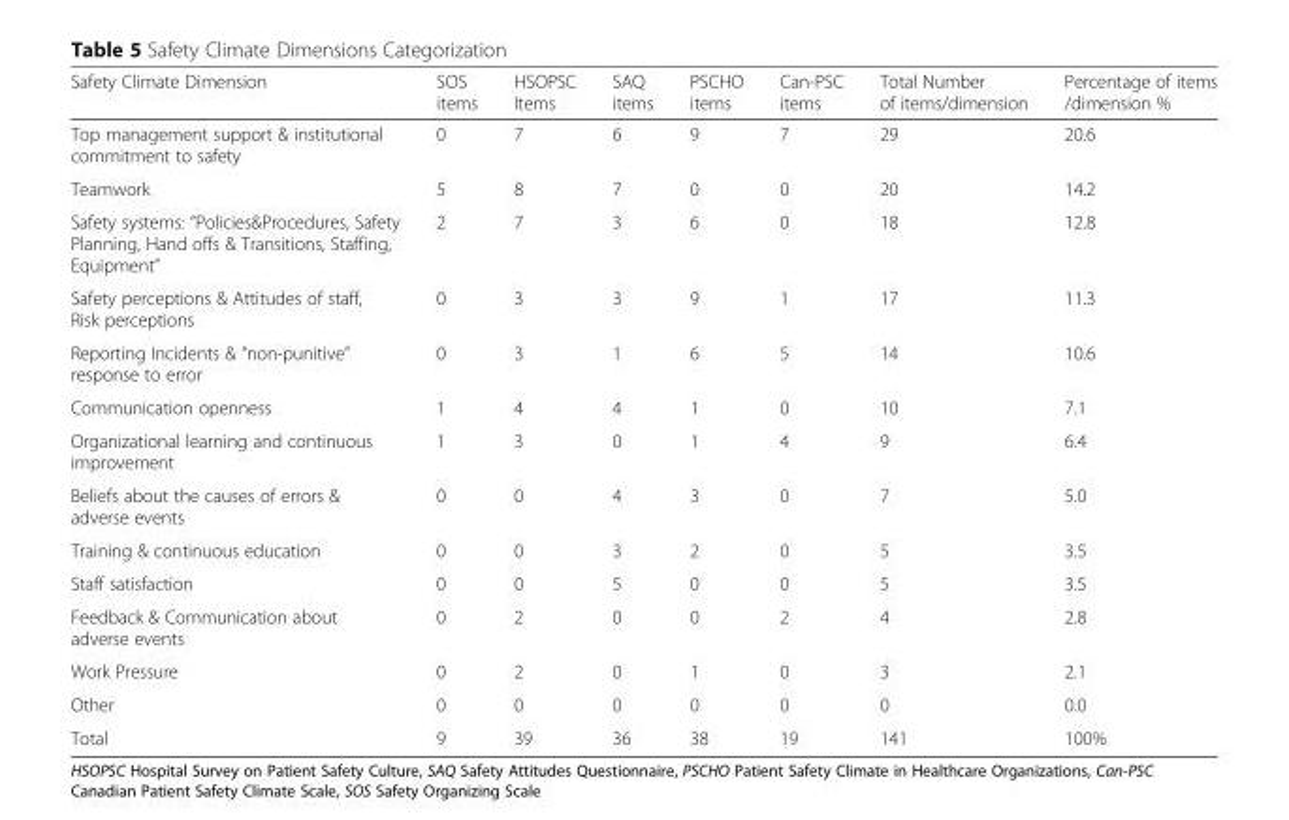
<table><thead><tr><td>Safety Climate Dimension</td><td>SOS items</td><td>HSOPSC Items</td><td>SAQ items</td><td>PSCHO items</td><td>Can-PSC items</td><td>Total Number of items/dimension</td><td>Percentage of items /dimension %</td></tr></thead><tbody><tr><td>Top management support &amp; institutional commitment to safety</td><td>0</td><td>7</td><td>6</td><td>9</td><td>7</td><td>29</td><td>20.6</td></tr><tr><td>Teamwork</td><td>5</td><td>8</td><td>7</td><td>0</td><td>0</td><td>20</td><td>14.2</td></tr><tr><td>Safety systems: “Policies&amp;Procedures, Safety Planning, Hand offs &amp; Transitions, Staffing, Equipment”</td><td>2</td><td>7</td><td>3</td><td>6</td><td>0</td><td>18</td><td>12.8</td></tr><tr><td>Safety perceptions &amp; Attitudes of staff, Risk perceptions</td><td>0</td><td>3</td><td>3</td><td>9</td><td>1</td><td>17</td><td>11.3</td></tr><tr><td>Reporting Incidents &amp; “non-punitive” response to error</td><td>0</td><td>3</td><td>1</td><td>6</td><td>5</td><td>14</td><td>10.6</td></tr><tr><td>Communication openness</td><td>1</td><td>4</td><td>4</td><td>1</td><td>0</td><td>10</td><td>7.1</td></tr><tr><td>Organizational learning and continuous improvement</td><td>1</td><td>3</td><td>0</td><td>1</td><td>4</td><td>9</td><td>6.4</td></tr><tr><td>Beliefs about the causes of errors &amp; adverse events</td><td>0</td><td>0</td><td>4</td><td>3</td><td>0</td><td>7</td><td>5.0</td></tr><tr><td>Training &amp; continuous education</td><td>0</td><td>0</td><td>3</td><td>2</td><td>0</td><td>5</td><td>3.5</td></tr><tr><td>Staff satisfaction</td><td>0</td><td>0</td><td>5</td><td>0</td><td>0</td><td>5</td><td>3.5</td></tr><tr><td>Feedback &amp; Communication about adverse events</td><td>0</td><td>2</td><td>0</td><td>0</td><td>2</td><td>4</td><td>2.8</td></tr><tr><td>Work Pressure</td><td>0</td><td>2</td><td>0</td><td>1</td><td>0</td><td>3</td><td>2.1</td></tr><tr><td>Other</td><td>0</td><td>0</td><td>0</td><td>0</td><td>0</td><td>0</td><td>0.0</td></tr><tr><td>Total</td><td>9</td><td>39</td><td>36</td><td>38</td><td>19</td><td>141</td><td>100%</td></tr></tbody></table>